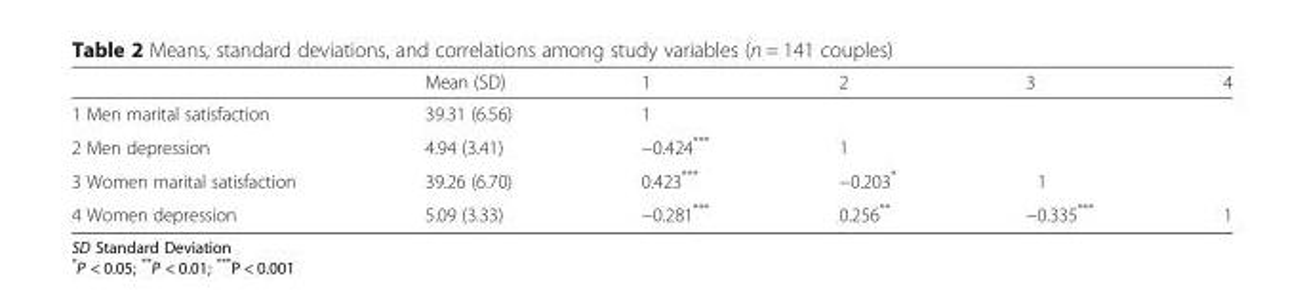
<table><thead><tr><td></td><td>Mean (SD)</td><td>1</td><td>2</td><td>3</td><td>4</td></tr></thead><tbody><tr><td>1 Men marital satisfaction</td><td>39.31 (6.56)</td><td>1</td><td></td><td></td><td></td></tr><tr><td>2 Men depression</td><td>4.94 (3.41)</td><td>−0.424***</td><td>1</td><td></td><td></td></tr><tr><td>3 Women marital satisfaction</td><td>39.26 (6.70)</td><td>0.423***</td><td>−0.203*</td><td>1</td><td></td></tr><tr><td>4 Women depression</td><td>5.09 (3.33)</td><td>−0.281***</td><td>0.256**</td><td>−0.335***</td><td>1</td></tr></tbody></table>